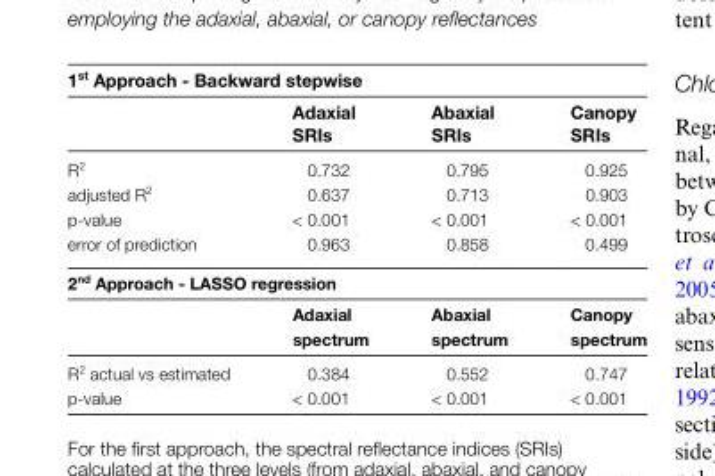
<table><thead><tr><td colspan="4">1<sup>st</sup> Approach - Backward stepwise</td></tr><tr><td></td><td>Adaxial SRIs</td><td>Abaxial SRIs</td><td>Canopy SRIs</td></tr></thead><tbody><tr><td>R<sup>2</sup></td><td>0.732</td><td>0.795</td><td>0.925</td></tr><tr><td>adjusted R<sup>2</sup></td><td>0.637</td><td>0.713</td><td>0.903</td></tr><tr><td>p-value</td><td>&lt; 0.001</td><td>&lt; 0.001</td><td>&lt; 0.001</td></tr><tr><td>error of prediction</td><td>0.963</td><td>0.858</td><td>0.499</td></tr><tr><td colspan="4">2<sup>nd</sup> Approach - LASSO regression</td></tr><tr><td></td><td>Adaxial spectrum</td><td>Abaxial spectrum</td><td>Canopy spectrum</td></tr><tr><td>R<sup>2</sup> actual vs estimated</td><td>0.384</td><td>0.552</td><td>0.747</td></tr><tr><td>p-value</td><td>&lt; 0.001</td><td>&lt; 0.001</td><td>&lt; 0.001</td></tr></tbody></table>